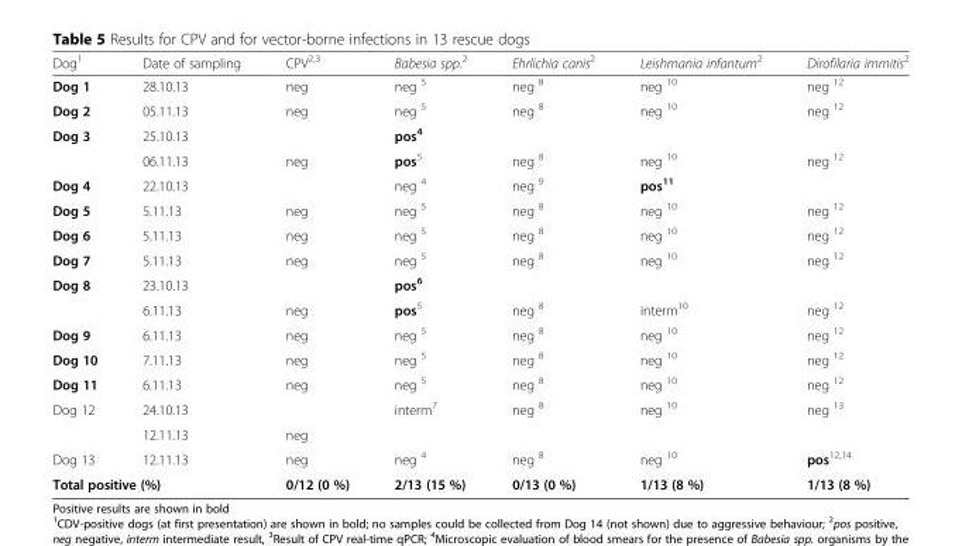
<table><thead><tr><td>Dog<sup>1</sup></td><td>Date of sampling</td><td>CPV<sup>2,3</sup></td><td>Babesia spp.<sup>2</sup></td><td>Ehrlichia canis<sup>2</sup></td><td>Leishmania infantum<sup>2</sup></td><td>Dirofilaria immitis<sup>2</sup></td></tr></thead><tbody><tr><td>Dog 1</td><td>28.10.13</td><td>neg</td><td>neg <sup>5</sup></td><td>neg <sup>8</sup></td><td>neg <sup>10</sup></td><td>neg <sup>12</sup></td></tr><tr><td>Dog 2</td><td>05.11.13</td><td>neg</td><td>neg <sup>5</sup></td><td>neg <sup>8</sup></td><td>neg <sup>10</sup></td><td>neg <sup>12</sup></td></tr><tr><td rowspan="2">Dog 3</td><td>25.10.13</td><td></td><td>pos<sup>4</sup></td><td></td><td></td><td></td></tr><tr><td>06.11.13</td><td>neg</td><td>pos<sup>5</sup></td><td>neg <sup>8</sup></td><td>neg <sup>10</sup></td><td>neg <sup>12</sup></td></tr><tr><td>Dog 4</td><td>22.10.13</td><td></td><td>neg <sup>4</sup></td><td>neg <sup>9</sup></td><td>pos<sup>11</sup></td><td></td></tr><tr><td>Dog 5</td><td>5.11.13</td><td>neg</td><td>neg <sup>5</sup></td><td>neg <sup>8</sup></td><td>neg <sup>10</sup></td><td>neg <sup>12</sup></td></tr><tr><td>Dog 6</td><td>5.11.13</td><td>neg</td><td>neg <sup>5</sup></td><td>neg <sup>8</sup></td><td>neg <sup>10</sup></td><td>neg <sup>12</sup></td></tr><tr><td>Dog 7</td><td>5.11.13</td><td>neg</td><td>neg <sup>5</sup></td><td>neg <sup>8</sup></td><td>neg <sup>10</sup></td><td>neg <sup>12</sup></td></tr><tr><td rowspan="2">Dog 8</td><td>23.10.13</td><td></td><td>pos<sup>6</sup></td><td></td><td></td><td></td></tr><tr><td>6.11.13</td><td>neg</td><td>pos<sup>5</sup></td><td>neg <sup>8</sup></td><td>interm<sup>10</sup></td><td>neg <sup>12</sup></td></tr><tr><td>Dog 9</td><td>6.11.13</td><td>neg</td><td>neg <sup>5</sup></td><td>neg <sup>8</sup></td><td>neg <sup>10</sup></td><td>neg <sup>12</sup></td></tr><tr><td>Dog 10</td><td>7.11.13</td><td>neg</td><td>neg <sup>5</sup></td><td>neg <sup>8</sup></td><td>neg <sup>10</sup></td><td>neg <sup>12</sup></td></tr><tr><td>Dog 11</td><td>6.11.13</td><td>neg</td><td>neg <sup>5</sup></td><td>neg <sup>8</sup></td><td>neg <sup>10</sup></td><td>neg <sup>12</sup></td></tr><tr><td rowspan="2">Dog 12</td><td>24.10.13</td><td></td><td>interm<sup>7</sup></td><td>neg <sup>8</sup></td><td>neg <sup>10</sup></td><td>neg <sup>13</sup></td></tr><tr><td>12.11.13</td><td>neg</td><td></td><td></td><td></td><td></td></tr><tr><td>Dog 13</td><td>12.11.13</td><td>neg</td><td>neg <sup>4</sup></td><td>neg <sup>8</sup></td><td>neg <sup>10</sup></td><td>pos<sup>12,14</sup></td></tr><tr><td colspan="2">Total positive (%)</td><td>0/12 (0 %)</td><td>2/13 (15 %)</td><td>0/13 (0 %)</td><td>1/13 (8 %)</td><td>1/13 (8 %)</td></tr></tbody></table>